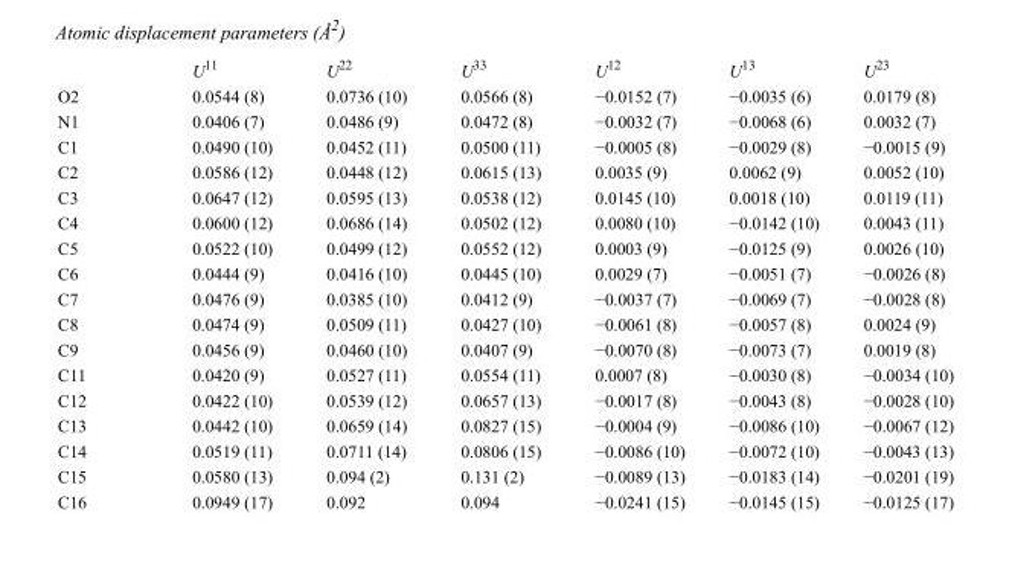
<table><thead><tr><td></td><td>U<sup>11</sup></td><td>U<sup>22</sup></td><td>U<sup>33</sup></td><td>U<sup>12</sup></td><td>U<sup>13</sup></td><td>U<sup>23</sup></td></tr></thead><tbody><tr><td>O2</td><td>0.0544 (8)</td><td>0.0736 (10)</td><td>0.0566 (8)</td><td>−0.0152 (7)</td><td>−0.0035 (6)</td><td>0.0179 (8)</td></tr><tr><td>N1</td><td>0.0406 (7)</td><td>0.0486 (9)</td><td>0.0472 (8)</td><td>−0.0032 (7)</td><td>−0.0068 (6)</td><td>0.0032 (7)</td></tr><tr><td>C1</td><td>0.0490 (10)</td><td>0.0452 (11)</td><td>0.0500 (11)</td><td>−0.0005 (8)</td><td>−0.0029 (8)</td><td>−0.0015 (9)</td></tr><tr><td>C2</td><td>0.0586 (12)</td><td>0.0448 (12)</td><td>0.0615 (13)</td><td>0.0035 (9)</td><td>0.0062 (9)</td><td>0.0052 (10)</td></tr><tr><td>C3</td><td>0.0647 (12)</td><td>0.0595 (13)</td><td>0.0538 (12)</td><td>0.0145 (10)</td><td>0.0018 (10)</td><td>0.0119 (11)</td></tr><tr><td>C4</td><td>0.0600 (12)</td><td>0.0686 (14)</td><td>0.0502 (12)</td><td>0.0080 (10)</td><td>−0.0142 (10)</td><td>0.0043 (11)</td></tr><tr><td>C5</td><td>0.0522 (10)</td><td>0.0499 (12)</td><td>0.0552 (12)</td><td>0.0003 (9)</td><td>−0.0125 (9)</td><td>0.0026 (10)</td></tr><tr><td>C6</td><td>0.0444 (9)</td><td>0.0416 (10)</td><td>0.0445 (10)</td><td>0.0029 (7)</td><td>−0.0051 (7)</td><td>−0.0026 (8)</td></tr><tr><td>C7</td><td>0.0476 (9)</td><td>0.0385 (10)</td><td>0.0412 (9)</td><td>−0.0037 (7)</td><td>−0.0069 (7)</td><td>−0.0028 (8)</td></tr><tr><td>C8</td><td>0.0474 (9)</td><td>0.0509 (11)</td><td>0.0427 (10)</td><td>−0.0061 (8)</td><td>−0.0057 (8)</td><td>0.0024 (9)</td></tr><tr><td>C9</td><td>0.0456 (9)</td><td>0.0460 (10)</td><td>0.0407 (9)</td><td>−0.0070 (8)</td><td>−0.0073 (7)</td><td>0.0019 (8)</td></tr><tr><td>C11</td><td>0.0420 (9)</td><td>0.0527 (11)</td><td>0.0554 (11)</td><td>0.0007 (8)</td><td>−0.0030 (8)</td><td>−0.0034 (10)</td></tr><tr><td>C12</td><td>0.0422 (10)</td><td>0.0539 (12)</td><td>0.0657 (13)</td><td>−0.0017 (8)</td><td>−0.0043 (8)</td><td>−0.0028 (10)</td></tr><tr><td>C13</td><td>0.0442 (10)</td><td>0.0659 (14)</td><td>0.0827 (15)</td><td>−0.0004 (9)</td><td>−0.0086 (10)</td><td>−0.0067 (12)</td></tr><tr><td>C14</td><td>0.0519 (11)</td><td>0.0711 (14)</td><td>0.0806 (15)</td><td>−0.0086 (10)</td><td>−0.0072 (10)</td><td>−0.0043 (13)</td></tr><tr><td>C15</td><td>0.0580 (13)</td><td>0.094 (2)</td><td>0.131 (2)</td><td>−0.0089 (13)</td><td>−0.0183 (14)</td><td>−0.0201 (19)</td></tr><tr><td>C16</td><td>0.0949 (17)</td><td>0.092</td><td>0.094</td><td>−0.0241 (15)</td><td>−0.0145 (15)</td><td>−0.0125 (17)</td></tr></tbody></table>